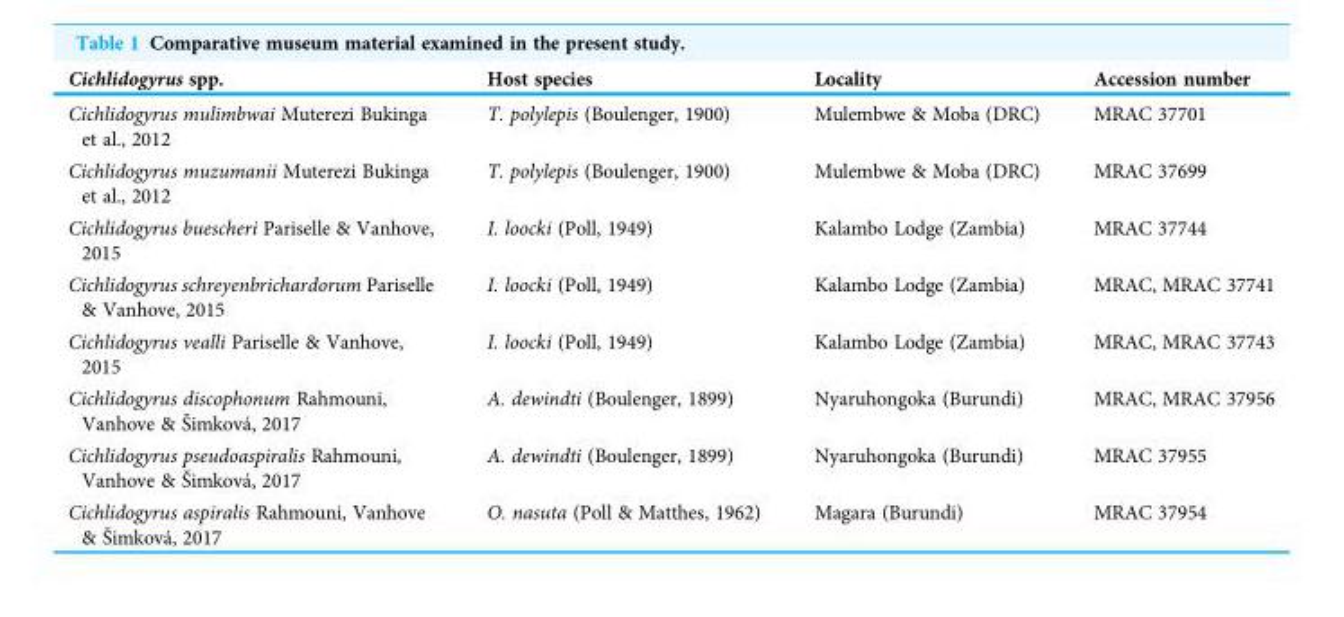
<table><thead><tr><td>Cichlidogyrus spp.</td><td>Host species</td><td>Locality</td><td>Accession number</td></tr></thead><tbody><tr><td>Cichlidogyrus mulimbwai Muterezi Bukinga et al., 2012</td><td>T. polylepis (Boulenger, 1900)</td><td>Mulembwe &amp; Moba (DRC)</td><td>MRAC 37701</td></tr><tr><td>Cichlidogyrus muzumanii Muterezi Bukinga et al., 2012</td><td>T. polylepis (Boulenger, 1900)</td><td>Mulembwe &amp; Moba (DRC)</td><td>MRAC 37699</td></tr><tr><td>Cichlidogyrus buescheri Pariselle &amp; Vanhove, 2015</td><td>I. loocki (Poll, 1949)</td><td>Kalambo Lodge (Zambia)</td><td>MRAC 37744</td></tr><tr><td>Cichlidogyrus schreyenbrichardorum Pariselle &amp; Vanhove, 2015</td><td>I. loocki (Poll, 1949)</td><td>Kalambo Lodge (Zambia)</td><td>MRAC, MRAC 37741</td></tr><tr><td>Cichlidogyrus vealli Pariselle &amp; Vanhove, 2015</td><td>I. loocki (Poll, 1949)</td><td>Kalambo Lodge (Zambia)</td><td>MRAC, MRAC 37743</td></tr><tr><td>Cichlidogyrus discophonum Rahmouni, Vanhove &amp; Šimková, 2017</td><td>A. dewindti (Boulenger, 1899)</td><td>Nyaruhongoka (Burundi)</td><td>MRAC, MRAC 37956</td></tr><tr><td>Cichlidogyrus pseudoaspiralis Rahmouni, Vanhove &amp; Šimková, 2017</td><td>A. dewindti (Boulenger, 1899)</td><td>Nyaruhongoka (Burundi)</td><td>MRAC 37955</td></tr><tr><td>Cichlidogyrus aspiralis Rahmouni, Vanhove &amp; Šimková, 2017</td><td>O. nasuta (Poll &amp; Matthes, 1962)</td><td>Magara (Burundi)</td><td>MRAC 37954</td></tr></tbody></table>